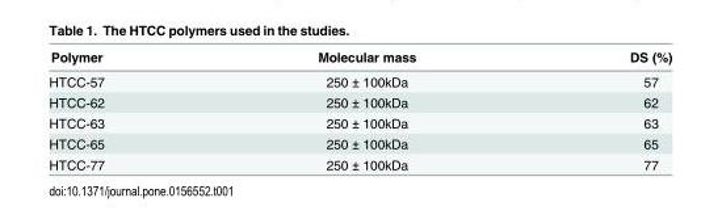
<table><thead><tr><td>Polymer</td><td>Molecular mass</td><td>DS (%)</td></tr></thead><tbody><tr><td>HTCC-57</td><td>250 ± 100kDa</td><td>57</td></tr><tr><td>HTCC-62</td><td>250 ± 100kDa</td><td>62</td></tr><tr><td>HTCC-63</td><td>250 ± 100kDa</td><td>63</td></tr><tr><td>HTCC-65</td><td>250 ± 100kDa</td><td>65</td></tr><tr><td>HTCC-77</td><td>250 ± 100kDa</td><td>77</td></tr></tbody></table>